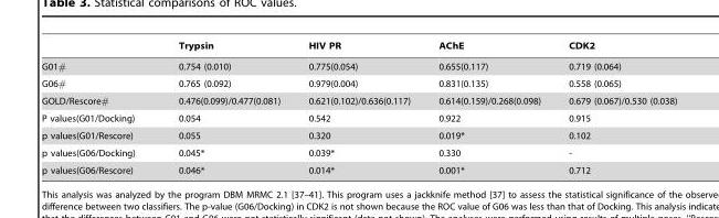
<table><thead><tr><td></td><td>Trypsin</td><td>HIV PR</td><td>AChE</td><td>CDK2</td></tr></thead><tbody><tr><td>G01#</td><td>0.754 (0.010)</td><td>0.775(0.054)</td><td>0.655(0.117)</td><td>0.719 (0.064)</td></tr><tr><td>G06#</td><td>0.765 (0.092)</td><td>0.979(0.004)</td><td>0.831(0.135)</td><td>0.558 (0.065)</td></tr><tr><td>GOLD/Rescore#</td><td>0.476(0.099)/0.477(0.081)</td><td>0.621(0.102)/0.636(0.117)</td><td>0.614(0.159)/0.268(0.098)</td><td>0.679 (0.067)/0.530 (0.038)</td></tr><tr><td>P values(G01/Docking)</td><td>0.054</td><td>0.542</td><td>0.922</td><td>0.915</td></tr><tr><td>p values(G01/Rescore)</td><td>0.055</td><td>0.320</td><td>0.019*</td><td>0.102</td></tr><tr><td>p values(G06/Docking)</td><td>0.045*</td><td>0.039*</td><td>0.330</td><td>-</td></tr><tr><td>p values(G06/Rescore)</td><td>0.046*</td><td>0.014*</td><td>0.001*</td><td>0.712</td></tr></tbody></table>